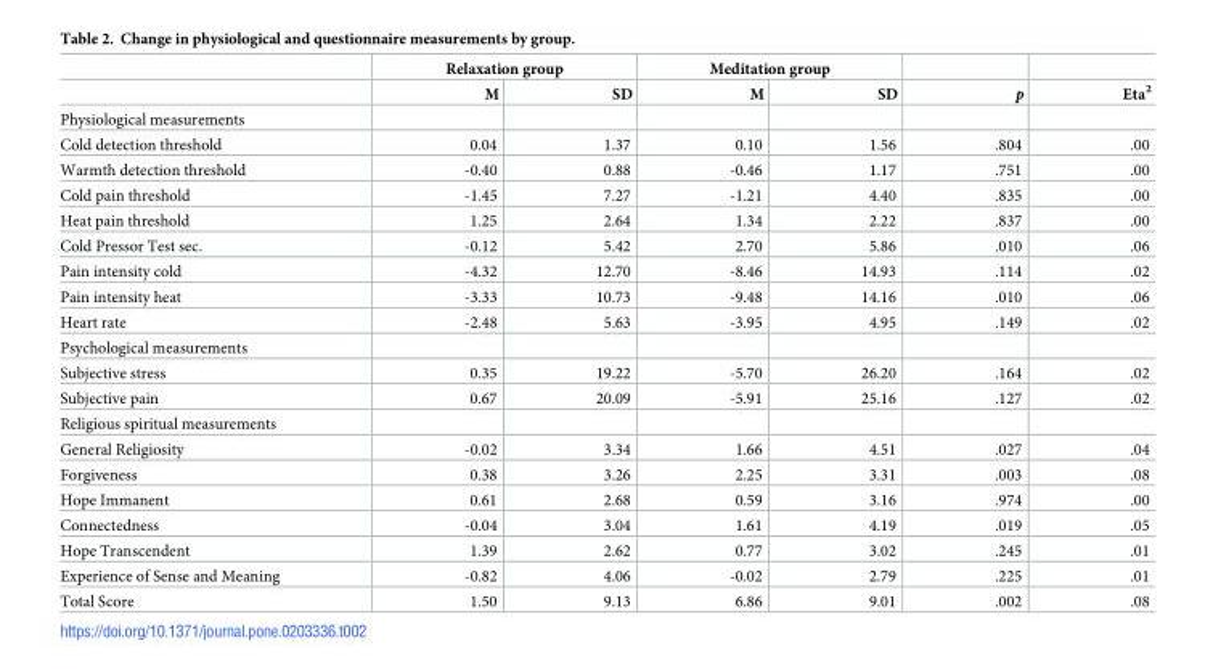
<table><thead><tr><td rowspan="2"></td><td colspan="2">Relaxation group</td><td colspan="2">Meditation group</td><td rowspan="2">p</td><td rowspan="2">Eta<sup>2</sup></td></tr><tr><td>M</td><td>SD</td><td>M</td><td>SD</td></tr></thead><tbody><tr><td colspan="7">Physiological measurements</td></tr><tr><td>Cold detection threshold</td><td>0.04</td><td>1.37</td><td>0.10</td><td>1.56</td><td>.804</td><td>.00</td></tr><tr><td>Warmth detection threshold</td><td>-0.40</td><td>0.88</td><td>-0.46</td><td>1.17</td><td>.751</td><td>.00</td></tr><tr><td>Cold pain threshold</td><td>-1.45</td><td>7.27</td><td>-1.21</td><td>4.40</td><td>.835</td><td>.00</td></tr><tr><td>Heat pain threshold</td><td>1.25</td><td>2.64</td><td>1.34</td><td>2.22</td><td>.837</td><td>.00</td></tr><tr><td>Cold Pressor Test sec.</td><td>-0.12</td><td>5.42</td><td>2.70</td><td>5.86</td><td>.010</td><td>.06</td></tr><tr><td>Pain intensity cold</td><td>-4.32</td><td>12.70</td><td>-8.46</td><td>14.93</td><td>.114</td><td>.02</td></tr><tr><td>Pain intensity heat</td><td>-3.33</td><td>10.73</td><td>-9.48</td><td>14.16</td><td>.010</td><td>.06</td></tr><tr><td>Heart rate</td><td>-2.48</td><td>5.63</td><td>-3.95</td><td>4.95</td><td>.149</td><td>.02</td></tr><tr><td colspan="7">Psychological measurements</td></tr><tr><td>Subjective stress</td><td>0.35</td><td>19.22</td><td>-5.70</td><td>26.20</td><td>.164</td><td>.02</td></tr><tr><td>Subjective pain</td><td>0.67</td><td>20.09</td><td>-5.91</td><td>25.16</td><td>.127</td><td>.02</td></tr><tr><td colspan="7">Religious spiritual measurements</td></tr><tr><td>General Religiosity</td><td>-0.02</td><td>3.34</td><td>1.66</td><td>4.51</td><td>.027</td><td>.04</td></tr><tr><td>Forgiveness</td><td>0.38</td><td>3.26</td><td>2.25</td><td>3.31</td><td>.003</td><td>.08</td></tr><tr><td>Hope Immanent</td><td>0.61</td><td>2.68</td><td>0.59</td><td>3.16</td><td>.974</td><td>.00</td></tr><tr><td>Connectedness</td><td>-0.04</td><td>3.04</td><td>1.61</td><td>4.19</td><td>.019</td><td>.05</td></tr><tr><td>Hope Transcendent</td><td>1.39</td><td>2.62</td><td>0.77</td><td>3.02</td><td>.245</td><td>.01</td></tr><tr><td>Experience of Sense and Meaning</td><td>-0.82</td><td>4.06</td><td>-0.02</td><td>2.79</td><td>.225</td><td>.01</td></tr><tr><td>Total Score</td><td>1.50</td><td>9.13</td><td>6.86</td><td>9.01</td><td>.002</td><td>.08</td></tr></tbody></table>